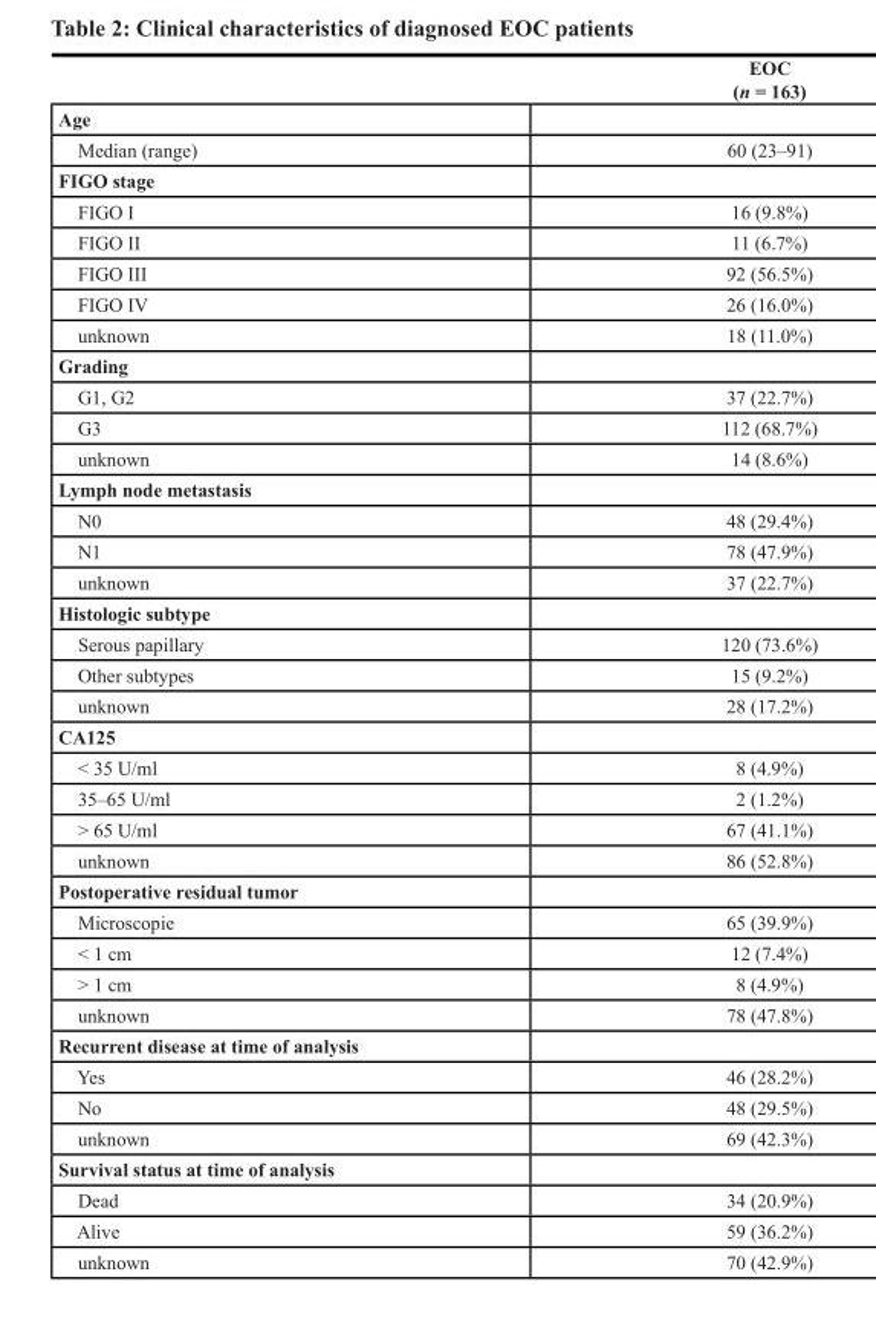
<table><thead><tr><td></td><td>EOC (n = 163)</td></tr></thead><tbody><tr><td colspan="2">Age</td></tr><tr><td>Median (range)</td><td>60 (23–91)</td></tr><tr><td colspan="2">FIGO stage</td></tr><tr><td>FIGO I</td><td>16 (9.8%)</td></tr><tr><td>FIGO II</td><td>11 (6.7%)</td></tr><tr><td>FIGO III</td><td>92 (56.5%)</td></tr><tr><td>FIGO IV</td><td>26 (16.0%)</td></tr><tr><td>unknown</td><td>18 (11.0%)</td></tr><tr><td colspan="2">Grading</td></tr><tr><td>G1, G2</td><td>37 (22.7%)</td></tr><tr><td>G3</td><td>112 (68.7%)</td></tr><tr><td>unknown</td><td>14 (8.6%)</td></tr><tr><td colspan="2">Lymph node metastasis</td></tr><tr><td>N0</td><td>48 (29.4%)</td></tr><tr><td>N1</td><td>78 (47.9%)</td></tr><tr><td>unknown</td><td>37 (22.7%)</td></tr><tr><td colspan="2">Histologic subtype</td></tr><tr><td>Serous papillary</td><td>120 (73.6%)</td></tr><tr><td>Other subtypes</td><td>15 (9.2%)</td></tr><tr><td>unknown</td><td>28 (17.2%)</td></tr><tr><td colspan="2">CA125</td></tr><tr><td>&lt; 35 U/ml</td><td>8 (4.9%)</td></tr><tr><td>35–65 U/ml</td><td>2 (1.2%)</td></tr><tr><td>&gt; 65 U/ml</td><td>67 (41.1%)</td></tr><tr><td>unknown</td><td>86 (52.8%)</td></tr><tr><td colspan="2">Postoperative residual tumor</td></tr><tr><td>Microscopie</td><td>65 (39.9%)</td></tr><tr><td>&lt; 1 cm</td><td>12 (7.4%)</td></tr><tr><td>&gt; 1 cm</td><td>8 (4.9%)</td></tr><tr><td>unknown</td><td>78 (47.8%)</td></tr><tr><td colspan="2">Recurrent disease at time of analysis</td></tr><tr><td>Yes</td><td>46 (28.2%)</td></tr><tr><td>No</td><td>48 (29.5%)</td></tr><tr><td>unknown</td><td>69 (42.3%)</td></tr><tr><td colspan="2">Survival status at time of analysis</td></tr><tr><td>Dead</td><td>34 (20.9%)</td></tr><tr><td>Alive</td><td>59 (36.2%)</td></tr><tr><td>unknown</td><td>70 (42.9%)</td></tr></tbody></table>